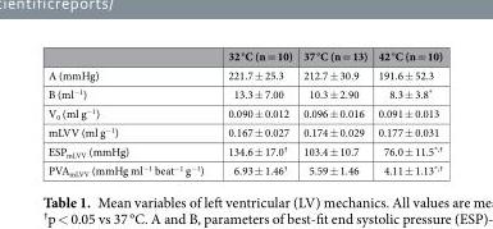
<table><thead><tr><td></td><td>32 °C (n = 10)</td><td>37 °C (n = 13)</td><td>42 °C (n = 10)</td></tr></thead><tbody><tr><td>A (mmHg)</td><td>221.7 ± 25.3</td><td>212.7 ± 30.9</td><td>191.6 ± 52.3</td></tr><tr><td>B (ml<sup>−1</sup>)</td><td>13.3 ± 7.00</td><td>10.3 ± 2.90</td><td>8.3 ± 3.8*</td></tr><tr><td>V<sub>0</sub> (ml g<sup>−1</sup>)</td><td>0.090 ± 0.012</td><td>0.096 ± 0.016</td><td>0.091 ± 0.013</td></tr><tr><td>mLVV (ml g<sup>−1</sup>)</td><td>0.167 ± 0.027</td><td>0.174 ± 0.029</td><td>0.177 ± 0.031</td></tr><tr><td>ESP<sub>mLVV</sub> (mmHg)</td><td>134.6 ± 17.0<sup>†</sup></td><td>103.4 ± 10.7</td><td>76.0 ± 11.5<sup>*,†</sup></td></tr><tr><td>PVA<sub>mLVV</sub> (mmHg ml<sup>−1</sup> beat<sup>−1</sup> g<sup>−1</sup>)</td><td>6.93 ± 1.46<sup>†</sup></td><td>5.59 ± 1.46</td><td>4.11 ± 1.13<sup>*,†</sup></td></tr></tbody></table>